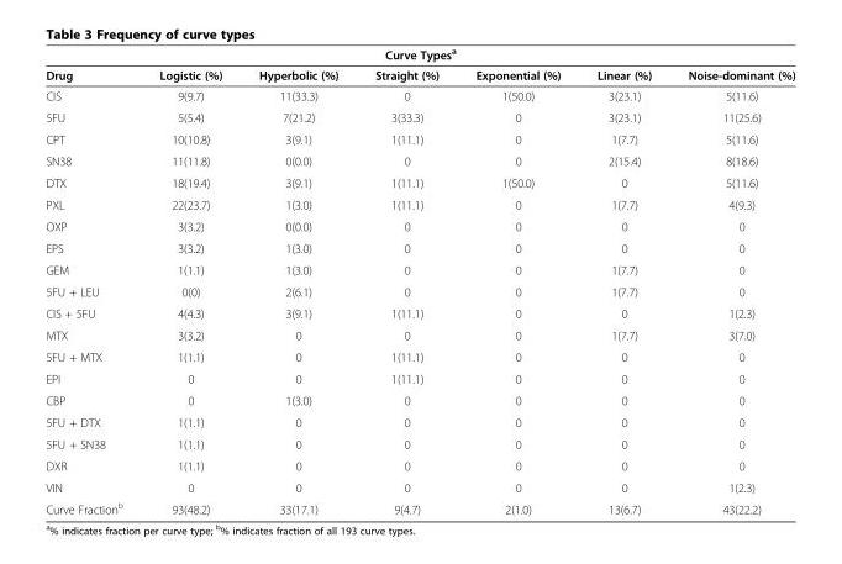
<table><thead><tr><td colspan="7">Curve Types<sup>a</sup></td></tr><tr><td>Drug</td><td>Logistic (%)</td><td>Hyperbolic (%)</td><td>Straight (%)</td><td>Exponential (%)</td><td>Linear (%)</td><td>Noise-dominant (%)</td></tr></thead><tbody><tr><td>CIS</td><td>9(9.7)</td><td>11(33.3)</td><td>0</td><td>1(50.0)</td><td>3(23.1)</td><td>5(11.6)</td></tr><tr><td>5FU</td><td>5(5.4)</td><td>7(21.2)</td><td>3(33.3)</td><td>0</td><td>3(23.1)</td><td>11(25.6)</td></tr><tr><td>CPT</td><td>10(10.8)</td><td>3(9.1)</td><td>1(11.1)</td><td>0</td><td>1(7.7)</td><td>5(11.6)</td></tr><tr><td>SN38</td><td>11(11.8)</td><td>0(0.0)</td><td>0</td><td>0</td><td>2(15.4)</td><td>8(18.6)</td></tr><tr><td>DTX</td><td>18(19.4)</td><td>3(9.1)</td><td>1(11.1)</td><td>1(50.0)</td><td>0</td><td>5(11.6)</td></tr><tr><td>PXL</td><td>22(23.7)</td><td>1(3.0)</td><td>1(11.1)</td><td>0</td><td>1(7.7)</td><td>4(9.3)</td></tr><tr><td>OXP</td><td>3(3.2)</td><td>0(0.0)</td><td>0</td><td>0</td><td>0</td><td>0</td></tr><tr><td>EPS</td><td>3(3.2)</td><td>1(3.0)</td><td>0</td><td>0</td><td>0</td><td>0</td></tr><tr><td>GEM</td><td>1(1.1)</td><td>1(3.0)</td><td>0</td><td>0</td><td>1(7.7)</td><td>0</td></tr><tr><td>5FU + LEU</td><td>0(0)</td><td>2(6.1)</td><td>0</td><td>0</td><td>1(7.7)</td><td>0</td></tr><tr><td>CIS + 5FU</td><td>4(4.3)</td><td>3(9.1)</td><td>1(11.1)</td><td>0</td><td>0</td><td>1(2.3)</td></tr><tr><td>MTX</td><td>3(3.2)</td><td>0</td><td>0</td><td>0</td><td>1(7.7)</td><td>3(7.0)</td></tr><tr><td>5FU + MTX</td><td>1(1.1)</td><td>0</td><td>1(11.1)</td><td>0</td><td>0</td><td>0</td></tr><tr><td>EPI</td><td>0</td><td>0</td><td>1(11.1)</td><td>0</td><td>0</td><td>0</td></tr><tr><td>CBP</td><td>0</td><td>1(3.0)</td><td>0</td><td>0</td><td>0</td><td>0</td></tr><tr><td>5FU + DTX</td><td>1(1.1)</td><td>0</td><td>0</td><td>0</td><td>0</td><td>0</td></tr><tr><td>5FU + SN38</td><td>1(1.1)</td><td>0</td><td>0</td><td>0</td><td>0</td><td>0</td></tr><tr><td>DXR</td><td>1(1.1)</td><td>0</td><td>0</td><td>0</td><td>0</td><td>0</td></tr><tr><td>VIN</td><td>0</td><td>0</td><td>0</td><td>0</td><td>0</td><td>1(2.3)</td></tr><tr><td>Curve Fraction<sup>b</sup></td><td>93(48.2)</td><td>33(17.1)</td><td>9(4.7)</td><td>2(1.0)</td><td>13(6.7)</td><td>43(22.2)</td></tr></tbody></table>